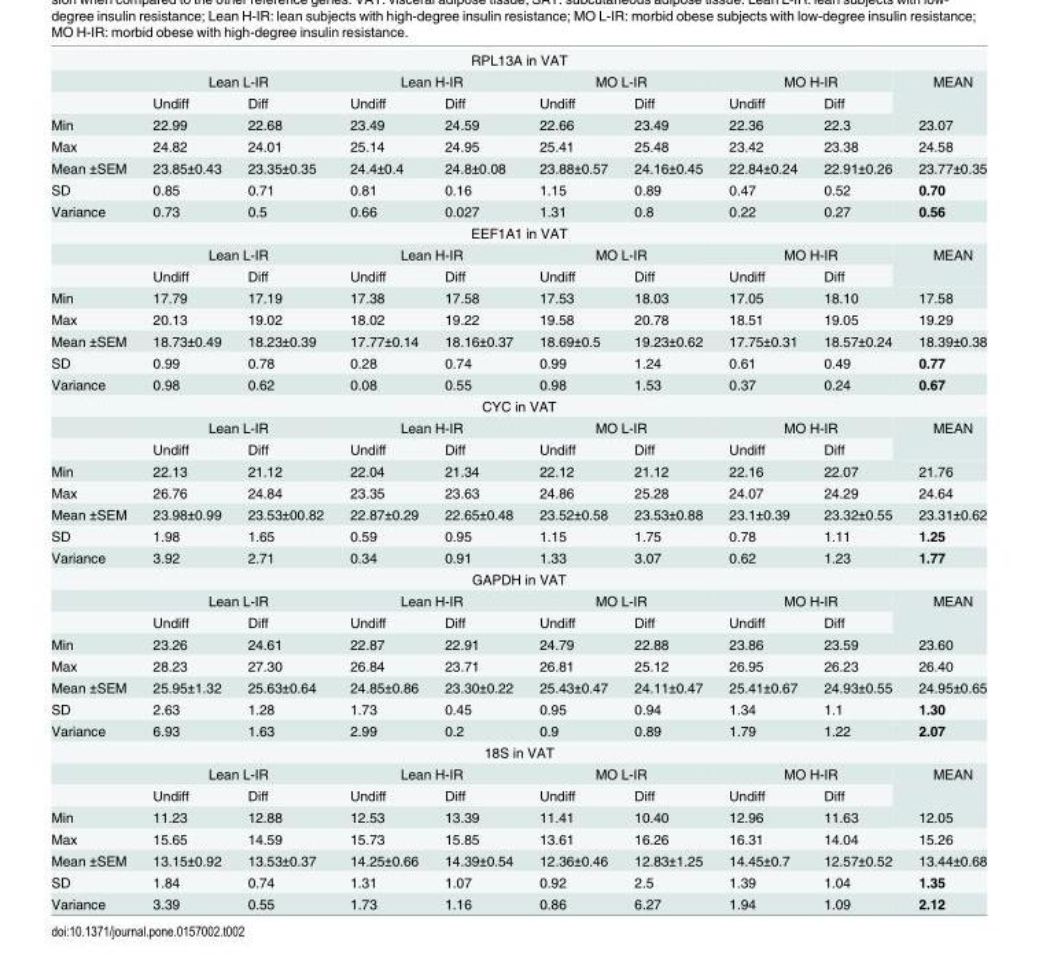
<table><tbody><tr><td colspan="10">RPL13A in VAT</td></tr><tr><td></td><td colspan="2">Lean L-IR</td><td colspan="2">Lean H-IR</td><td colspan="2">MO L-IR</td><td colspan="2">MO H-IR</td><td rowspan="2">MEAN</td></tr><tr><td></td><td>Undiff</td><td>Diff</td><td>Undiff</td><td>Diff</td><td>Undiff</td><td>Diff</td><td>Undiff</td><td>Diff</td></tr><tr><td>Min</td><td>22.99</td><td>22.68</td><td>23.49</td><td>24.59</td><td>22.66</td><td>23.49</td><td>22.36</td><td>22.3</td><td>23.07</td></tr><tr><td>Max</td><td>24.82</td><td>24.01</td><td>25.14</td><td>24.95</td><td>25.41</td><td>25.48</td><td>23.42</td><td>23.38</td><td>24.58</td></tr><tr><td>Mean ±SEM</td><td>23.85±0.43</td><td>23.35±0.35</td><td>24.4±0.4</td><td>24.8±0.08</td><td>23.88±0.57</td><td>24.16±0.45</td><td>22.84±0.24</td><td>22.91±0.26</td><td>23.77±0.35</td></tr><tr><td>SD</td><td>0.85</td><td>0.71</td><td>0.81</td><td>0.16</td><td>1.15</td><td>0.89</td><td>0.47</td><td>0.52</td><td>0.70</td></tr><tr><td>Variance</td><td>0.73</td><td>0.5</td><td>0.66</td><td>0.027</td><td>1.31</td><td>0.8</td><td>0.22</td><td>0.27</td><td>0.56</td></tr><tr><td colspan="10">EEF1A1 in VAT</td></tr><tr><td></td><td colspan="2">Lean L-IR</td><td colspan="2">Lean H-IR</td><td colspan="2">MO L-IR</td><td colspan="2">MO H-IR</td><td rowspan="2">MEAN</td></tr><tr><td></td><td>Undiff</td><td>Diff</td><td>Undiff</td><td>Diff</td><td>Undiff</td><td>Diff</td><td>Undiff</td><td>Diff</td></tr><tr><td>Min</td><td>17.79</td><td>17.19</td><td>17.38</td><td>17.58</td><td>17.53</td><td>18.03</td><td>17.05</td><td>18.10</td><td>17.58</td></tr><tr><td>Max</td><td>20.13</td><td>19.02</td><td>18.02</td><td>19.22</td><td>19.58</td><td>20.78</td><td>18.51</td><td>19.05</td><td>19.29</td></tr><tr><td>Mean ±SEM</td><td>18.73±0.49</td><td>18.23±0.39</td><td>17.77±0.14</td><td>18.16±0.37</td><td>18.69±0.5</td><td>19.23±0.62</td><td>17.75±0.31</td><td>18.57±0.24</td><td>18.39±0.38</td></tr><tr><td>SD</td><td>0.99</td><td>0.78</td><td>0.28</td><td>0.74</td><td>0.99</td><td>1.24</td><td>0.61</td><td>0.49</td><td>0.77</td></tr><tr><td>Variance</td><td>0.98</td><td>0.62</td><td>0.08</td><td>0.55</td><td>0.98</td><td>1.53</td><td>0.37</td><td>0.24</td><td>0.67</td></tr><tr><td colspan="10">CYC in VAT</td></tr><tr><td></td><td colspan="2">Lean L-IR</td><td colspan="2">Lean H-IR</td><td colspan="2">MO L-IR</td><td colspan="2">MO H-IR</td><td rowspan="2">MEAN</td></tr><tr><td></td><td>Undiff</td><td>Diff</td><td>Undiff</td><td>Diff</td><td>Undiff</td><td>Diff</td><td>Undiff</td><td>Diff</td></tr><tr><td>Min</td><td>22.13</td><td>21.12</td><td>22.04</td><td>21.34</td><td>22.12</td><td>21.12</td><td>22.16</td><td>22.07</td><td>21.76</td></tr><tr><td>Max</td><td>26.76</td><td>24.84</td><td>23.35</td><td>23.63</td><td>24.86</td><td>25.28</td><td>24.07</td><td>24.29</td><td>24.64</td></tr><tr><td>Mean ±SEM</td><td>23.98±0.99</td><td>23.53±00.82</td><td>22.87±0.29</td><td>22.65±0.48</td><td>23.52±0.58</td><td>23.53±0.88</td><td>23.1±0.39</td><td>23.32±0.55</td><td>23.31±0.62</td></tr><tr><td>SD</td><td>1.98</td><td>1.65</td><td>0.59</td><td>0.95</td><td>1.15</td><td>1.75</td><td>0.78</td><td>1.11</td><td>1.25</td></tr><tr><td>Variance</td><td>3.92</td><td>2.71</td><td>0.34</td><td>0.91</td><td>1.33</td><td>3.07</td><td>0.62</td><td>1.23</td><td>1.77</td></tr><tr><td colspan="10">GAPDH in VAT</td></tr><tr><td></td><td colspan="2">Lean L-IR</td><td colspan="2">Lean H-IR</td><td colspan="2">MO L-IR</td><td colspan="2">MO H-IR</td><td rowspan="2">MEAN</td></tr><tr><td></td><td>Undiff</td><td>Diff</td><td>Undiff</td><td>Diff</td><td>Undiff</td><td>Diff</td><td>Undiff</td><td>Diff</td></tr><tr><td>Min</td><td>23.26</td><td>24.61</td><td>22.87</td><td>22.91</td><td>24.79</td><td>22.88</td><td>23.86</td><td>23.59</td><td>23.60</td></tr><tr><td>Max</td><td>28.23</td><td>27.30</td><td>26.84</td><td>23.71</td><td>26.81</td><td>25.12</td><td>26.95</td><td>26.23</td><td>26.40</td></tr><tr><td>Mean ±SEM</td><td>25.95±1.32</td><td>25.63±0.64</td><td>24.85±0.86</td><td>23.30±0.22</td><td>25.43±0.47</td><td>24.11±0.47</td><td>25.41±0.67</td><td>24.93±0.55</td><td>24.95±0.65</td></tr><tr><td>SD</td><td>2.63</td><td>1.28</td><td>1.73</td><td>0.45</td><td>0.95</td><td>0.94</td><td>1.34</td><td>1.1</td><td>1.30</td></tr><tr><td>Variance</td><td>6.93</td><td>1.63</td><td>2.99</td><td>0.2</td><td>0.9</td><td>0.89</td><td>1.79</td><td>1.22</td><td>2.07</td></tr><tr><td colspan="10">18S in VAT</td></tr><tr><td></td><td colspan="2">Lean L-IR</td><td colspan="2">Lean H-IR</td><td colspan="2">MO L-IR</td><td colspan="2">MO H-IR</td><td rowspan="2">MEAN</td></tr><tr><td></td><td>Undiff</td><td>Diff</td><td>Undiff</td><td>Diff</td><td>Undiff</td><td>Diff</td><td>Undiff</td><td>Diff</td></tr><tr><td>Min</td><td>11.23</td><td>12.88</td><td>12.53</td><td>13.39</td><td>11.41</td><td>10.40</td><td>12.96</td><td>11.63</td><td>12.05</td></tr><tr><td>Max</td><td>15.65</td><td>14.59</td><td>15.73</td><td>15.85</td><td>13.61</td><td>16.26</td><td>16.31</td><td>14.04</td><td>15.26</td></tr><tr><td>Mean ±SEM</td><td>13.15±0.92</td><td>13.53±0.37</td><td>14.25±0.66</td><td>14.39±0.54</td><td>12.36±0.46</td><td>12.83±1.25</td><td>14.45±0.7</td><td>12.57±0.52</td><td>13.44±0.68</td></tr><tr><td>SD</td><td>1.84</td><td>0.74</td><td>1.31</td><td>1.07</td><td>0.92</td><td>2.5</td><td>1.39</td><td>1.04</td><td>1.35</td></tr><tr><td>Variance</td><td>3.39</td><td>0.55</td><td>1.73</td><td>1.16</td><td>0.86</td><td>6.27</td><td>1.94</td><td>1.09</td><td>2.12</td></tr></tbody></table>